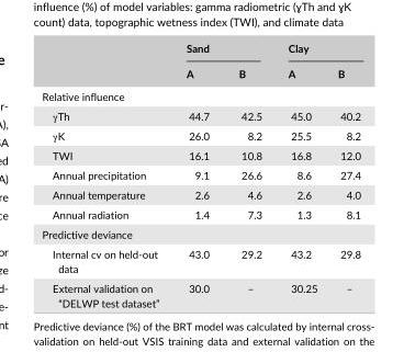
<table><thead><tr><td rowspan="2"></td><td colspan="2">Sand</td><td colspan="2">Clay</td></tr><tr><td>A</td><td>B</td><td>A</td><td>B</td></tr></thead><tbody><tr><td colspan="5">Relative influence</td></tr><tr><td>γTh</td><td>44.7</td><td>42.5</td><td>45.0</td><td>40.2</td></tr><tr><td>γK</td><td>26.0</td><td>8.2</td><td>25.5</td><td>8.2</td></tr><tr><td>TWI</td><td>16.1</td><td>10.8</td><td>16.8</td><td>12.0</td></tr><tr><td>Annual precipitation</td><td>9.1</td><td>26.6</td><td>8.6</td><td>27.4</td></tr><tr><td>Annual temperature</td><td>2.6</td><td>4.6</td><td>2.6</td><td>4.0</td></tr><tr><td>Annual radiation</td><td>1.4</td><td>7.3</td><td>1.3</td><td>8.1</td></tr><tr><td colspan="5">Predictive deviance</td></tr><tr><td>Internal cv on held- out data</td><td>43.0</td><td>29.2</td><td>43.2</td><td>29.8</td></tr><tr><td>External validation on “DELWP test dataset”</td><td>30.0</td><td>–</td><td>30.25</td><td>–</td></tr></tbody></table>